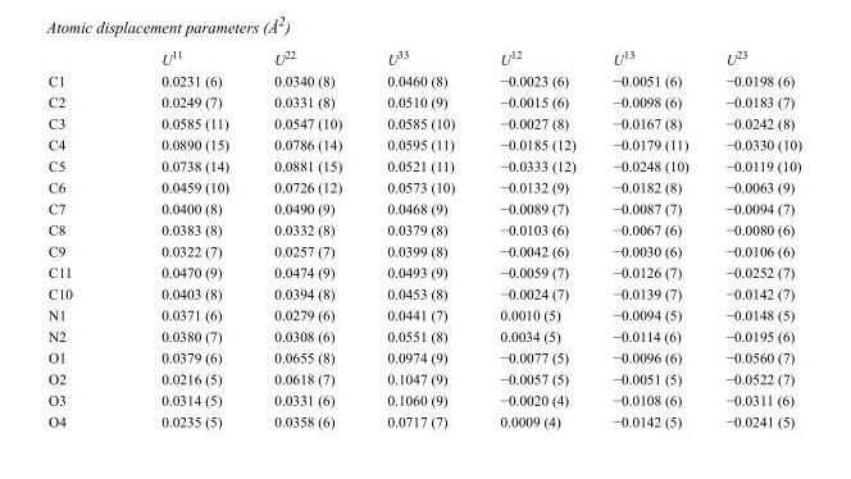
<table><thead><tr><td></td><td>U<sup>11</sup></td><td>U<sup>22</sup></td><td>U<sup>33</sup></td><td>U<sup>12</sup></td><td>U<sup>13</sup></td><td>U<sup>23</sup></td></tr></thead><tbody><tr><td>C1</td><td>0.0231 (6)</td><td>0.0340 (8)</td><td>0.0460 (8)</td><td>−0.0023 (6)</td><td>−0.0051 (6)</td><td>−0.0198 (6)</td></tr><tr><td>C2</td><td>0.0249 (7)</td><td>0.0331 (8)</td><td>0.0510 (9)</td><td>−0.0015 (6)</td><td>−0.0098 (6)</td><td>−0.0183 (7)</td></tr><tr><td>C3</td><td>0.0585 (11)</td><td>0.0547 (10)</td><td>0.0585 (10)</td><td>−0.0027 (8)</td><td>−0.0167 (8)</td><td>−0.0242 (8)</td></tr><tr><td>C4</td><td>0.0890 (15)</td><td>0.0786 (14)</td><td>0.0595 (11)</td><td>−0.0185 (12)</td><td>−0.0179 (11)</td><td>−0.0330 (10)</td></tr><tr><td>C5</td><td>0.0738 (14)</td><td>0.0881 (15)</td><td>0.0521 (11)</td><td>−0.0333 (12)</td><td>−0.0248 (10)</td><td>−0.0119 (10)</td></tr><tr><td>C6</td><td>0.0459 (10)</td><td>0.0726 (12)</td><td>0.0573 (10)</td><td>−0.0132 (9)</td><td>−0.0182 (8)</td><td>−0.0063 (9)</td></tr><tr><td>C7</td><td>0.0400 (8)</td><td>0.0490 (9)</td><td>0.0468 (9)</td><td>−0.0089 (7)</td><td>−0.0087 (7)</td><td>−0.0094 (7)</td></tr><tr><td>C8</td><td>0.0383 (8)</td><td>0.0332 (8)</td><td>0.0379 (8)</td><td>−0.0103 (6)</td><td>−0.0067 (6)</td><td>−0.0080 (6)</td></tr><tr><td>C9</td><td>0.0322 (7)</td><td>0.0257 (7)</td><td>0.0399 (8)</td><td>−0.0042 (6)</td><td>−0.0030 (6)</td><td>−0.0106 (6)</td></tr><tr><td>C11</td><td>0.0470 (9)</td><td>0.0474 (9)</td><td>0.0493 (9)</td><td>−0.0059 (7)</td><td>−0.0126 (7)</td><td>−0.0252 (7)</td></tr><tr><td>C10</td><td>0.0403 (8)</td><td>0.0394 (8)</td><td>0.0453 (8)</td><td>−0.0024 (7)</td><td>−0.0139 (7)</td><td>−0.0142 (7)</td></tr><tr><td>N1</td><td>0.0371 (6)</td><td>0.0279 (6)</td><td>0.0441 (7)</td><td>0.0010 (5)</td><td>−0.0094 (5)</td><td>−0.0148 (5)</td></tr><tr><td>N2</td><td>0.0380 (7)</td><td>0.0308 (6)</td><td>0.0551 (8)</td><td>0.0034 (5)</td><td>−0.0114 (6)</td><td>−0.0195 (6)</td></tr><tr><td>O1</td><td>0.0379 (6)</td><td>0.0655 (8)</td><td>0.0974 (9)</td><td>−0.0077 (5)</td><td>−0.0096 (6)</td><td>−0.0560 (7)</td></tr><tr><td>O2</td><td>0.0216 (5)</td><td>0.0618 (7)</td><td>0.1047 (9)</td><td>−0.0057 (5)</td><td>−0.0051 (5)</td><td>−0.0522 (7)</td></tr><tr><td>O3</td><td>0.0314 (5)</td><td>0.0331 (6)</td><td>0.1060 (9)</td><td>−0.0020 (4)</td><td>−0.0108 (6)</td><td>−0.0311 (6)</td></tr><tr><td>O4</td><td>0.0235 (5)</td><td>0.0358 (6)</td><td>0.0717 (7)</td><td>0.0009 (4)</td><td>−0.0142 (5)</td><td>−0.0241 (5)</td></tr></tbody></table>